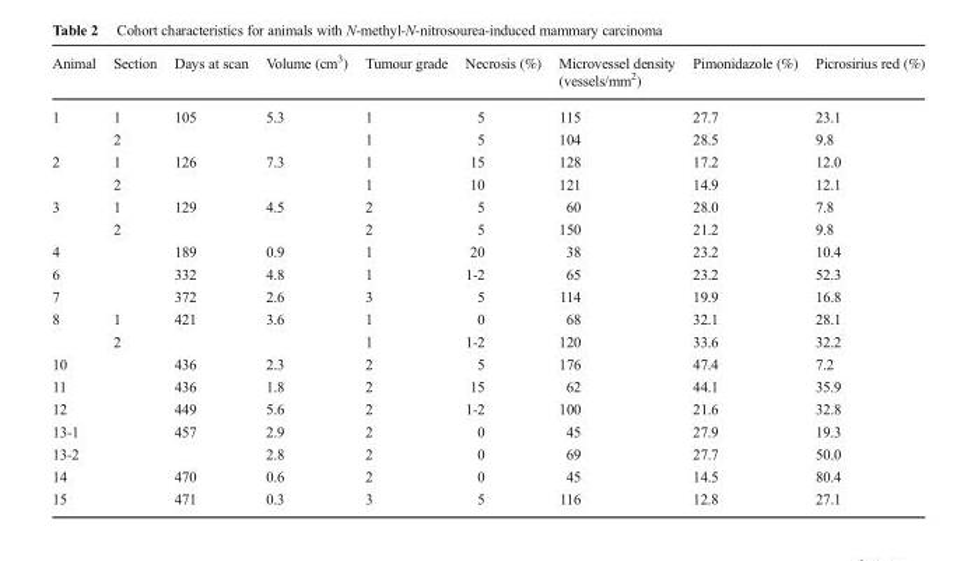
<table><thead><tr><td>Animal</td><td>Section</td><td>Days at scan</td><td>Volume (cm<sup>3</sup>)</td><td>Tumour grade</td><td>Necrosis (%)</td><td>Microvessel density (vessels/mm<sup>2</sup>)</td><td>Pimonidazole (%)</td><td>Picrosirius red (%)</td></tr></thead><tbody><tr><td rowspan="2">1</td><td>1</td><td rowspan="2">105</td><td rowspan="2">5.3</td><td>1</td><td>5</td><td>115</td><td>27.7</td><td>23.1</td></tr><tr><td>2</td><td>1</td><td>5</td><td>104</td><td>28.5</td><td>9.8</td></tr><tr><td rowspan="2">2</td><td>1</td><td rowspan="2">126</td><td rowspan="2">7.3</td><td>1</td><td>15</td><td>128</td><td>17.2</td><td>12.0</td></tr><tr><td>2</td><td>1</td><td>10</td><td>121</td><td>14.9</td><td>12.1</td></tr><tr><td rowspan="2">3</td><td>1</td><td rowspan="2">129</td><td rowspan="2">4.5</td><td>2</td><td>5</td><td>60</td><td>28.0</td><td>7.8</td></tr><tr><td>2</td><td>2</td><td>5</td><td>150</td><td>21.2</td><td>9.8</td></tr><tr><td>4</td><td></td><td>189</td><td>0.9</td><td>1</td><td>20</td><td>38</td><td>23.2</td><td>10.4</td></tr><tr><td>6</td><td></td><td>332</td><td>4.8</td><td>1</td><td>1-2</td><td>65</td><td>23.2</td><td>52.3</td></tr><tr><td>7</td><td></td><td>372</td><td>2.6</td><td>3</td><td>5</td><td>114</td><td>19.9</td><td>16.8</td></tr><tr><td rowspan="2">8</td><td>1</td><td rowspan="2">421</td><td rowspan="2">3.6</td><td>1</td><td>0</td><td>68</td><td>32.1</td><td>28.1</td></tr><tr><td>2</td><td>1</td><td>1-2</td><td>120</td><td>33.6</td><td>32.2</td></tr><tr><td>10</td><td></td><td>436</td><td>2.3</td><td>2</td><td>5</td><td>176</td><td>47.4</td><td>7.2</td></tr><tr><td>11</td><td></td><td>436</td><td>1.8</td><td>2</td><td>15</td><td>62</td><td>44.1</td><td>35.9</td></tr><tr><td>12</td><td></td><td>449</td><td>5.6</td><td>2</td><td>1-2</td><td>100</td><td>21.6</td><td>32.8</td></tr><tr><td>13-1</td><td></td><td rowspan="2">457</td><td>2.9</td><td>2</td><td>0</td><td>45</td><td>27.9</td><td>19.3</td></tr><tr><td>13-2</td><td></td><td>2.8</td><td>2</td><td>0</td><td>69</td><td>27.7</td><td>50.0</td></tr><tr><td>14</td><td></td><td>470</td><td>0.6</td><td>2</td><td>0</td><td>45</td><td>14.5</td><td>80.4</td></tr><tr><td>15</td><td></td><td>471</td><td>0.3</td><td>3</td><td>5</td><td>116</td><td>12.8</td><td>27.1</td></tr></tbody></table>